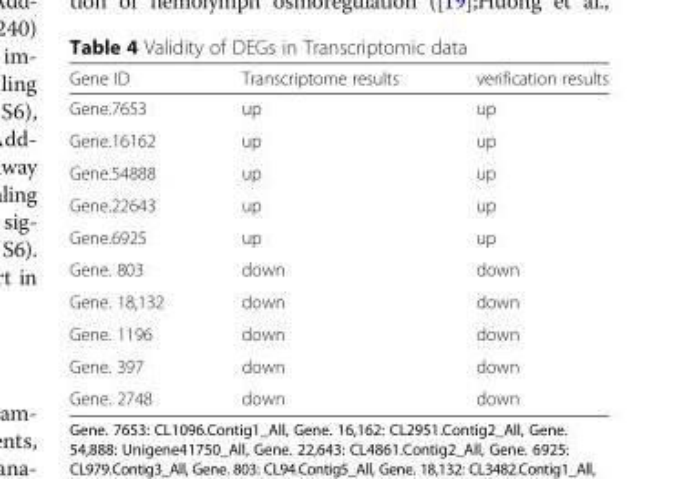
<table><thead><tr><td>Gene ID</td><td>Transcriptome results</td><td>verification results</td></tr></thead><tbody><tr><td>Gene.7653</td><td>up</td><td>up</td></tr><tr><td>Gene.16162</td><td>up</td><td>up</td></tr><tr><td>Gene.54888</td><td>up</td><td>up</td></tr><tr><td>Gene.22643</td><td>up</td><td>up</td></tr><tr><td>Gene.6925</td><td>up</td><td>up</td></tr><tr><td>Gene. 803</td><td>down</td><td>down</td></tr><tr><td>Gene. 18,132</td><td>down</td><td>down</td></tr><tr><td>Gene. 1196</td><td>down</td><td>down</td></tr><tr><td>Gene. 397</td><td>down</td><td>down</td></tr><tr><td>Gene. 2748</td><td>down</td><td>down</td></tr></tbody></table>